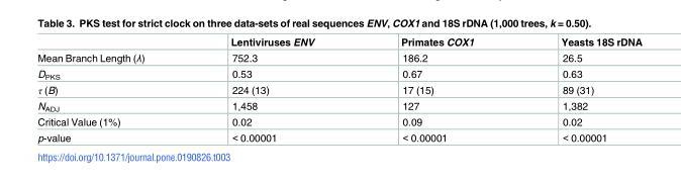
<table><thead><tr><td></td><td>Lentiviruses ENV</td><td>Primates COX1</td><td>Yeasts 18S rDNA</td></tr></thead><tbody><tr><td>Mean Branch Length (λ)</td><td>752.3</td><td>186.2</td><td>26.5</td></tr><tr><td>D<sub>PKS</sub></td><td>0.53</td><td>0.67</td><td>0.63</td></tr><tr><td>τ (B)</td><td>224 (13)</td><td>17 (15)</td><td>89 (31)</td></tr><tr><td>N<sub>ADJ</sub></td><td>1,458</td><td>127</td><td>1,382</td></tr><tr><td>Critical Value (1%)</td><td>0.02</td><td>0.09</td><td>0.02</td></tr><tr><td>p-value</td><td>&lt; 0.00001</td><td>&lt; 0.00001</td><td>&lt; 0.00001</td></tr></tbody></table>